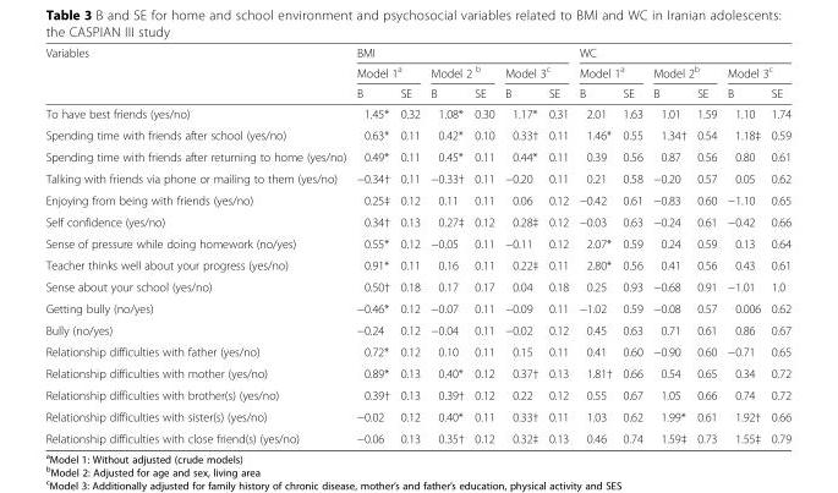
<table><thead><tr><td rowspan="3">Variables</td><td colspan="6">BMI</td><td colspan="6">WC</td></tr><tr><td colspan="2">Model 1<sup>a</sup></td><td colspan="2">Model 2 <sup>b</sup></td><td colspan="2">Model 3<sup>c</sup></td><td colspan="2">Model 1<sup>a</sup></td><td colspan="2">Model 2<sup>b</sup></td><td colspan="2">Model 3<sup>c</sup></td></tr><tr><td>B</td><td>SE</td><td>B</td><td>SE</td><td>B</td><td>SE</td><td>B</td><td>SE</td><td>B</td><td>SE</td><td>B</td><td>SE</td></tr></thead><tbody><tr><td>To have best friends (yes/no)</td><td>1.45*</td><td>0.32</td><td>1.08*</td><td>0.30</td><td>1.17*</td><td>0.31</td><td>2.01</td><td>1.63</td><td>1.01</td><td>1.59</td><td>1.10</td><td>1.74</td></tr><tr><td>Spending time with friends after school (yes/no)</td><td>0.63*</td><td>0.11</td><td>0.42*</td><td>0.10</td><td>0.33†</td><td>0.11</td><td>1.46*</td><td>0.55</td><td>1.34†</td><td>0.54</td><td>1.18‡</td><td>0.59</td></tr><tr><td>Spending time with friends after returning to home (yes/no)</td><td>0.49*</td><td>0.11</td><td>0.45*</td><td>0.11</td><td>0.44*</td><td>0.11</td><td>0.39</td><td>0.56</td><td>0.87</td><td>0.56</td><td>0.80</td><td>0.61</td></tr><tr><td>Talking with friends via phone or mailing to them (yes/no)</td><td>−0.34†</td><td>0.11</td><td>−0.33†</td><td>0.11</td><td>−0.20</td><td>0.11</td><td>0.21</td><td>0.58</td><td>−0.20</td><td>0.57</td><td>0.05</td><td>0.62</td></tr><tr><td>Enjoying from being with friends (yes/no)</td><td>0.25‡</td><td>0.12</td><td>0.11</td><td>0.11</td><td>0.06</td><td>0.12</td><td>−0.42</td><td>0.61</td><td>−0.83</td><td>0.60</td><td>−1.10</td><td>0.65</td></tr><tr><td>Self confidence (yes/no)</td><td>0.34†</td><td>0.13</td><td>0.27‡</td><td>0.12</td><td>0.28‡</td><td>0.12</td><td>−0.03</td><td>0.63</td><td>−0.24</td><td>0.61</td><td>−0.42</td><td>0.66</td></tr><tr><td>Sense of pressure while doing homework (no/yes)</td><td>0.55*</td><td>0.12</td><td>−0.05</td><td>0.11</td><td>−0.11</td><td>0.12</td><td>2.07*</td><td>0.59</td><td>0.24</td><td>0.59</td><td>0.13</td><td>0.64</td></tr><tr><td>Teacher thinks well about your progress (yes/no)</td><td>0.91*</td><td>0.11</td><td>0.16</td><td>0.11</td><td>0.22‡</td><td>0.11</td><td>2.80*</td><td>0.56</td><td>0.41</td><td>0.56</td><td>0.43</td><td>0.61</td></tr><tr><td>Sense about your school (yes/no)</td><td>0.50†</td><td>0.18</td><td>0.17</td><td>0.17</td><td>0.04</td><td>0.18</td><td>0.25</td><td>0.93</td><td>−0.68</td><td>0.91</td><td>−1.01</td><td>1.0</td></tr><tr><td>Getting bully (no/yes)</td><td>−0.46*</td><td>0.12</td><td>−0.07</td><td>0.11</td><td>−0.09</td><td>0.11</td><td>−1.02</td><td>0.59</td><td>−0.08</td><td>0.57</td><td>0.006</td><td>0.62</td></tr><tr><td>Bully (no/yes)</td><td>−0.24</td><td>0.12</td><td>−0.04</td><td>0.11</td><td>−0.02</td><td>0.12</td><td>0.45</td><td>0.63</td><td>0.71</td><td>0.61</td><td>0.86</td><td>0.67</td></tr><tr><td>Relationship difficulties with father (yes/no)</td><td>0.72*</td><td>0.12</td><td>0.10</td><td>0.11</td><td>0.15</td><td>0.11</td><td>0.41</td><td>0.60</td><td>−0.90</td><td>0.60</td><td>−0.71</td><td>0.65</td></tr><tr><td>Relationship difficulties with mother (yes/no)</td><td>0.89*</td><td>0.13</td><td>0.40*</td><td>0.12</td><td>0.37†</td><td>0.13</td><td>1.81†</td><td>0.66</td><td>0.54</td><td>0.65</td><td>0.34</td><td>0.72</td></tr><tr><td>Relationship difficulties with brother(s) (yes/no)</td><td>0.39†</td><td>0.13</td><td>0.39†</td><td>0.12</td><td>0.22</td><td>0.12</td><td>0.55</td><td>0.67</td><td>1.05</td><td>0.66</td><td>0.74</td><td>0.72</td></tr><tr><td>Relationship difficulties with sister(s) (yes/no)</td><td>−0.02</td><td>0.12</td><td>0.40*</td><td>0.11</td><td>0.33†</td><td>0.11</td><td>1.03</td><td>0.62</td><td>1.99*</td><td>0.61</td><td>1.92†</td><td>0.66</td></tr><tr><td>Relationship difficulties with close friend(s) (yes/no)</td><td>−0.06</td><td>0.13</td><td>0.35†</td><td>0.12</td><td>0.32‡</td><td>0.13</td><td>0.46</td><td>0.74</td><td>1.59‡</td><td>0.73</td><td>1.55‡</td><td>0.79</td></tr></tbody></table>